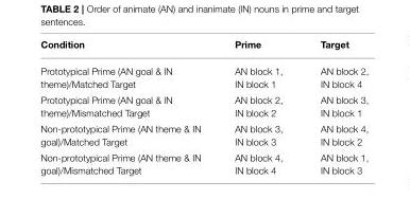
<table><thead><tr><td>Condition</td><td>Prime</td><td>Target</td></tr></thead><tbody><tr><td>Prototypical Prime (AN goal &amp; IN theme)/Matched Target</td><td>AN block 1, IN block 1</td><td>AN block 2, IN block 4</td></tr><tr><td>Prototypical Prime (AN goal &amp; IN theme)/Mismatched Target</td><td>AN block 2, IN block 2</td><td>AN block 3, IN block 1</td></tr><tr><td>Non-prototypical Prime (AN theme &amp; IN goal)/Matched Target</td><td>AN block 3, IN block 3</td><td>AN block 4, IN block 2</td></tr><tr><td>Non-prototypical Prime (AN theme &amp; IN goal)/Mismatched Target</td><td>AN block 4, IN block 4</td><td>AN block 1, IN block 3</td></tr></tbody></table>